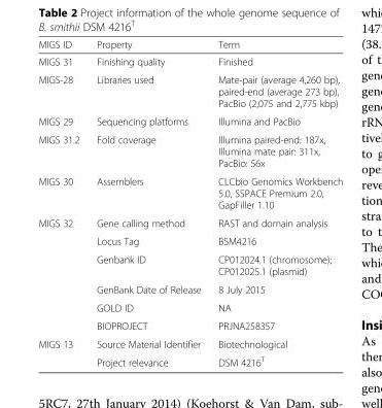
<table><thead><tr><td>MIGS ID</td><td>Property</td><td>Term</td></tr></thead><tbody><tr><td>MIGS 31</td><td>Finishing quality</td><td>Finished</td></tr><tr><td>MIGS-28</td><td>Libraries used</td><td>Mate-pair (average 4,260 bp), paired-end (average 273 bp), PacBio (2,075 and 2,775 kbp)</td></tr><tr><td>MIGS 29</td><td>Sequencing platforms</td><td>Illumina and PacBio</td></tr><tr><td>MIGS 31.2</td><td>Fold coverage</td><td>Illumina paired-end: 187x, Illumina mate pair: 311x, PacBio: 56x</td></tr><tr><td>MIGS 30</td><td>Assemblers</td><td>CLCbio Genomics Workbench 5.0, SSPACE Premium 2.0, GapFiller 1.10</td></tr><tr><td rowspan="6">MIGS 32</td><td>Gene calling method</td><td>RAST and domain analysis</td></tr><tr><td>Locus Tag</td><td>BSM4216</td></tr><tr><td>Genbank ID</td><td>CP012024.1 (chromosome); CP012025.1 (plasmid)</td></tr><tr><td>GenBank Date of Release</td><td>8 July 2015</td></tr><tr><td>GOLD ID</td><td>NA</td></tr><tr><td>BIOPROJECT</td><td>PRJNA258357</td></tr><tr><td rowspan="2">MIGS 13</td><td>Source Material Identifier</td><td>Biotechnological</td></tr><tr><td>Project relevance</td><td>DSM 4216<sup>T</sup></td></tr></tbody></table>